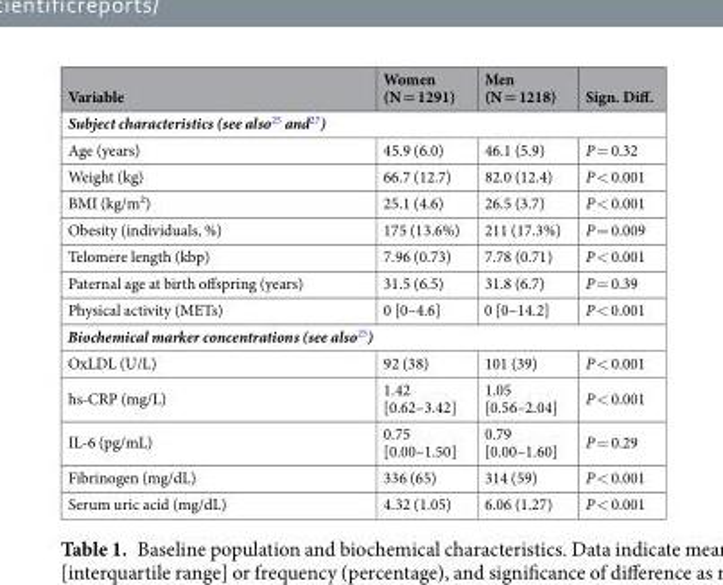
<table><thead><tr><td>Variable</td><td>Women (N = 1291)</td><td>Men (N = 1218)</td><td>Sign. Diff.</td></tr></thead><tbody><tr><td colspan="4">Subject characteristics (see also<sup>25</sup> and<sup>27</sup>)</td></tr><tr><td>Age (years)</td><td>45.9 (6.0)</td><td>46.1 (5.9)</td><td>P = 0.32</td></tr><tr><td>Weight (kg)</td><td>66.7 (12.7)</td><td>82.0 (12.4)</td><td>P &lt; 0.001</td></tr><tr><td>BMI (kg/m²)</td><td>25.1 (4.6)</td><td>26.5 (3.7)</td><td>P &lt; 0.001</td></tr><tr><td>Obesity (individuals, %)</td><td>175 (13.6%)</td><td>211 (17.3%)</td><td>P = 0.009</td></tr><tr><td>Telomere length (kbp)</td><td>7.96 (0.73)</td><td>7.78 (0.71)</td><td>P &lt; 0.001</td></tr><tr><td>Paternal age at birth offspring (years)</td><td>31.5 (6.5)</td><td>31.8 (6.7)</td><td>P = 0.39</td></tr><tr><td>Physical activity (METs)</td><td>0 [0–4.6]</td><td>0 [0–14.2]</td><td>P &lt; 0.001</td></tr><tr><td colspan="4">Biochemical marker concentrations (see also<sup>25</sup>)</td></tr><tr><td>OxLDL (U/L)</td><td>92 (38)</td><td>101 (39)</td><td>P &lt; 0.001</td></tr><tr><td>hs-CRP (mg/L)</td><td>1.42 [0.62–3.42]</td><td>1.05 [0.56–2.04]</td><td>P &lt; 0.001</td></tr><tr><td>IL-6 (pg/mL)</td><td>0.75 [0.00–1.50]</td><td>0.79 [0.00–1.60]</td><td>P = 0.29</td></tr><tr><td>Fibrinogen (mg/dL)</td><td>336 (65)</td><td>314 (59)</td><td>P &lt; 0.001</td></tr><tr><td>Serum uric acid (mg/dL)</td><td>4.32 (1.05)</td><td>6.06 (1.27)</td><td>P &lt; 0.001</td></tr></tbody></table>